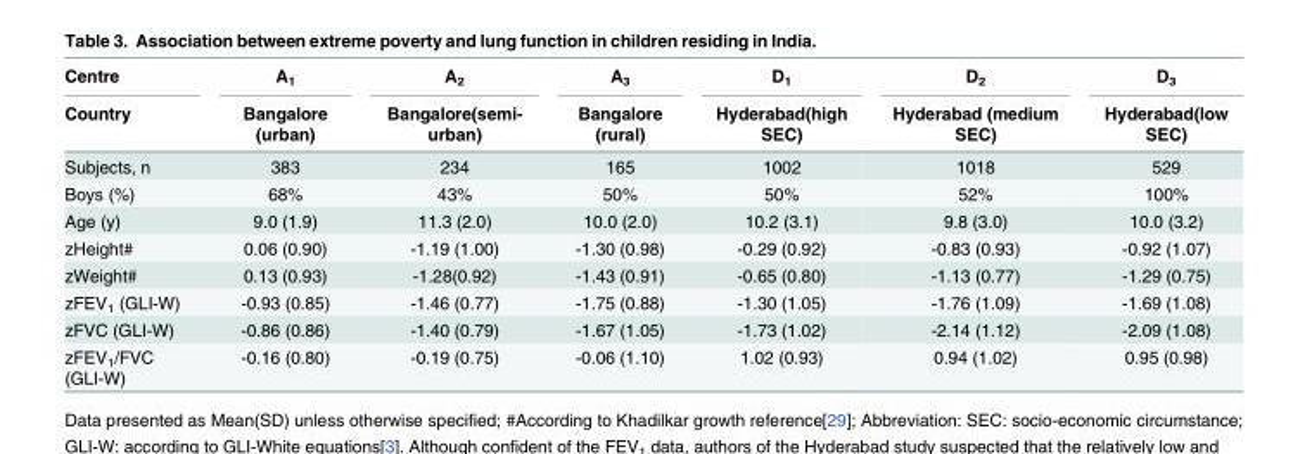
<table><thead><tr><td rowspan="2">Centre Country</td><td rowspan="2">A<sub>1</sub> Bangalore (urban)</td><td rowspan="2">A<sub>2</sub> Bangalore(semi- urban)</td><td rowspan="2">A<sub>3</sub> Bangalore (rural)</td><td rowspan="2">D<sub>1</sub> Hyderabad(high SEC)</td><td rowspan="2">D<sub>2</sub> Hyderabad (medium SEC)</td><td rowspan="2">D<sub>3</sub> Hyderabad(low SEC)</td></tr><tr></tr></thead><tbody><tr><td>Subjects, n</td><td>383</td><td>234</td><td>165</td><td>1002</td><td>1018</td><td>529</td></tr><tr><td>Boys (%)</td><td>68%</td><td>43%</td><td>50%</td><td>50%</td><td>52%</td><td>100%</td></tr><tr><td>Age (y)</td><td>9.0 (1.9)</td><td>11.3 (2.0)</td><td>10.0 (2.0)</td><td>10.2 (3.1)</td><td>9.8 (3.0)</td><td>10.0 (3.2)</td></tr><tr><td>zHeight#</td><td>0.06 (0.90)</td><td>-1.19 (1.00)</td><td>-1.30 (0.98)</td><td>-0.29 (0.92)</td><td>-0.83 (0.93)</td><td>-0.92 (1.07)</td></tr><tr><td>zWeight#</td><td>0.13 (0.93)</td><td>-1.28(0.92)</td><td>-1.43 (0.91)</td><td>-0.65 (0.80)</td><td>-1.13 (0.77)</td><td>-1.29 (0.75)</td></tr><tr><td>zFEV<sub>1</sub> (GLI-W)</td><td>-0.93 (0.85)</td><td>-1.46 (0.77)</td><td>-1.75 (0.88)</td><td>-1.30 (1.05)</td><td>-1.76 (1.09)</td><td>-1.69 (1.08)</td></tr><tr><td>zFVC (GLI-W)</td><td>-0.86 (0.86)</td><td>-1.40 (0.79)</td><td>-1.67 (1.05)</td><td>-1.73 (1.02)</td><td>-2.14 (1.12)</td><td>-2.09 (1.08)</td></tr><tr><td>zFEV<sub>1</sub>/FVC (GLI-W)</td><td>-0.16 (0.80)</td><td>-0.19 (0.75)</td><td>-0.06 (1.10)</td><td>1.02 (0.93)</td><td>0.94 (1.02)</td><td>0.95 (0.98)</td></tr></tbody></table>